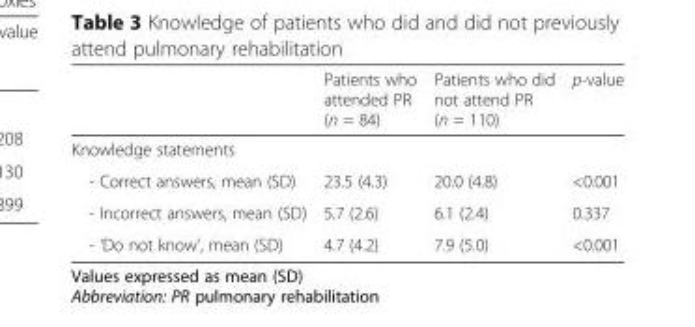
<table><thead><tr><td></td><td>Patients who attended PR (n = 84)</td><td>Patients who did not attend PR (n = 110)</td><td>p-value</td></tr></thead><tbody><tr><td colspan="4">Knowledge statements</td></tr><tr><td>- Correct answers, mean (SD)</td><td>23.5 (4.3)</td><td>20.0 (4.8)</td><td>&lt;0.001</td></tr><tr><td>- Incorrect answers, mean (SD)</td><td>5.7 (2.6)</td><td>6.1 (2.4)</td><td>0.337</td></tr><tr><td>- ‘Do not know’, mean (SD)</td><td>4.7 (4.2)</td><td>7.9 (5.0)</td><td>&lt;0.001</td></tr></tbody></table>